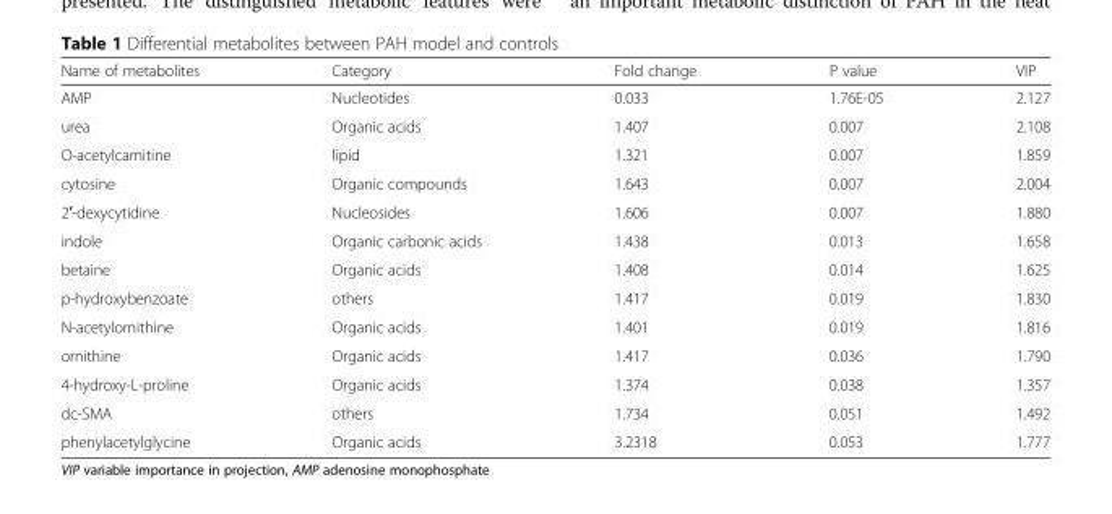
<table><thead><tr><td>Name of metabolites</td><td>Category</td><td>Fold change</td><td>P value</td><td>VIP</td></tr></thead><tbody><tr><td>AMP</td><td>Nucleotides</td><td>0.033</td><td>1.76E-05</td><td>2.127</td></tr><tr><td>urea</td><td>Organic acids</td><td>1.407</td><td>0.007</td><td>2.108</td></tr><tr><td>O-acetylcarnitine</td><td>lipid</td><td>1.321</td><td>0.007</td><td>1.859</td></tr><tr><td>cytosine</td><td>Organic compounds</td><td>1.643</td><td>0.007</td><td>2.004</td></tr><tr><td>2′-dexycytidine</td><td>Nucleosides</td><td>1.606</td><td>0.007</td><td>1.880</td></tr><tr><td>indole</td><td>Organic carbonic acids</td><td>1.438</td><td>0.013</td><td>1.658</td></tr><tr><td>betaine</td><td>Organic acids</td><td>1.408</td><td>0.014</td><td>1.625</td></tr><tr><td>p-hydroxybenzoate</td><td>others</td><td>1.417</td><td>0.019</td><td>1.830</td></tr><tr><td>N-acetylornithine</td><td>Organic acids</td><td>1.401</td><td>0.019</td><td>1.816</td></tr><tr><td>ornithine</td><td>Organic acids</td><td>1.417</td><td>0.036</td><td>1.790</td></tr><tr><td>4-hydroxy-L-proline</td><td>Organic acids</td><td>1.374</td><td>0.038</td><td>1.357</td></tr><tr><td>dc-SMA</td><td>others</td><td>1.734</td><td>0.051</td><td>1.492</td></tr><tr><td>phenylacetylglycine</td><td>Organic acids</td><td>3.2318</td><td>0.053</td><td>1.777</td></tr></tbody></table>